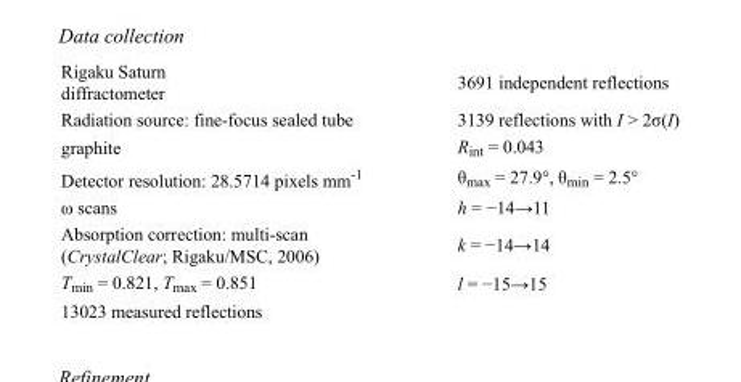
<table><tbody><tr><td>Rigaku Saturn diffractometer</td><td>3691 independent reflections</td></tr><tr><td>Radiation source: fine-focus sealed tube</td><td>3139 reflections with I &gt; 2σ(I)</td></tr><tr><td>graphite</td><td>R<sub>int</sub> = 0.043</td></tr><tr><td>Detector resolution: 28.5714 pixels mm<sup>-1</sup></td><td>θ<sub>max</sub> = 27.9°, θ<sub>min</sub> = 2.5°</td></tr><tr><td>ω scans</td><td>h = −14→11</td></tr><tr><td>Absorption correction: multi-scan (CrystalClear; Rigaku/MSC, 2006)</td><td>k = −14→14</td></tr><tr><td>T<sub>min</sub> = 0.821, T<sub>max</sub> = 0.851</td><td>l = −15→15</td></tr><tr><td>13023 measured reflections</td><td></td></tr></tbody></table>